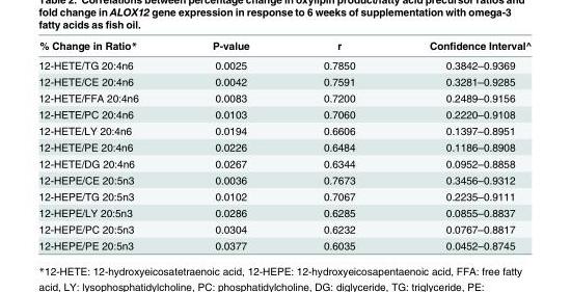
<table><thead><tr><td>% Change in Ratio*</td><td>P-value</td><td>r</td><td>Confidence Interval^</td></tr></thead><tbody><tr><td>12-HETE/TG 20:4n6</td><td>0.0025</td><td>0.7850</td><td>0.3842–0.9369</td></tr><tr><td>12-HETE/CE 20:4n6</td><td>0.0042</td><td>0.7591</td><td>0.3281–0.9285</td></tr><tr><td>12-HETE/FFA 20:4n6</td><td>0.0083</td><td>0.7200</td><td>0.2489–0.9156</td></tr><tr><td>12-HETE/PC 20:4n6</td><td>0.0103</td><td>0.7060</td><td>0.2220–0.9108</td></tr><tr><td>12-HETE/LY 20:4n6</td><td>0.0194</td><td>0.6606</td><td>0.1397–0.8951</td></tr><tr><td>12-HETE/PE 20:4n6</td><td>0.0226</td><td>0.6484</td><td>0.1186–0.8908</td></tr><tr><td>12-HETE/DG 20:4n6</td><td>0.0267</td><td>0.6344</td><td>0.0952–0.8858</td></tr><tr><td>12-HEPE/CE 20:5n3</td><td>0.0036</td><td>0.7673</td><td>0.3456–0.9312</td></tr><tr><td>12-HEPE/TG 20:5n3</td><td>0.0102</td><td>0.7067</td><td>0.2235–0.9111</td></tr><tr><td>12-HEPE/LY 20:5n3</td><td>0.0286</td><td>0.6285</td><td>0.0855–0.8837</td></tr><tr><td>12-HEPE/PC 20:5n3</td><td>0.0304</td><td>0.6232</td><td>0.0767–0.8817</td></tr><tr><td>12-HEPE/PE 20:5n3</td><td>0.0377</td><td>0.6035</td><td>0.0452–0.8745</td></tr></tbody></table>